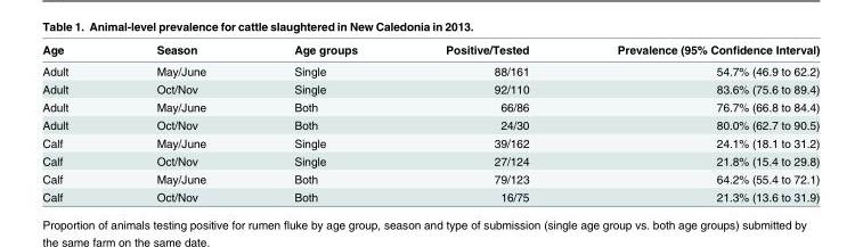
<table><thead><tr><td>Age</td><td>Season</td><td>Age groups</td><td>Positive/Tested</td><td>Prevalence (95% Confidence Interval)</td></tr></thead><tbody><tr><td>Adult</td><td>May/June</td><td>Single</td><td>88/161</td><td>54.7% (46.9 to 62.2)</td></tr><tr><td>Adult</td><td>Oct/Nov</td><td>Single</td><td>92/110</td><td>83.6% (75.6 to 89.4)</td></tr><tr><td>Adult</td><td>May/June</td><td>Both</td><td>66/86</td><td>76.7% (66.8 to 84.4)</td></tr><tr><td>Adult</td><td>Oct/Nov</td><td>Both</td><td>24/30</td><td>80.0% (62.7 to 90.5)</td></tr><tr><td>Calf</td><td>May/June</td><td>Single</td><td>39/162</td><td>24.1% (18.1 to 31.2)</td></tr><tr><td>Calf</td><td>Oct/Nov</td><td>Single</td><td>27/124</td><td>21.8% (15.4 to 29.8)</td></tr><tr><td>Calf</td><td>May/June</td><td>Both</td><td>79/123</td><td>64.2% (55.4 to 72.1)</td></tr><tr><td>Calf</td><td>Oct/Nov</td><td>Both</td><td>16/75</td><td>21.3% (13.6 to 31.9)</td></tr></tbody></table>